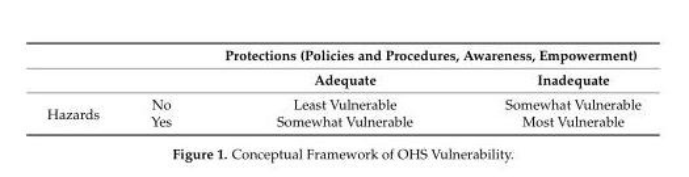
<table><thead><tr><td rowspan="2"></td><td rowspan="2"></td><td colspan="2">Protections (Policies and Procedures, Awareness, Empowerment)</td></tr><tr><td>Adequate</td><td>Inadequate</td></tr></thead><tbody><tr><td rowspan="2">Hazards</td><td>No</td><td>Least Vulnerable</td><td>Somewhat Vulnerable</td></tr><tr><td>Yes</td><td>Somewhat Vulnerable</td><td>Most Vulnerable</td></tr></tbody></table>